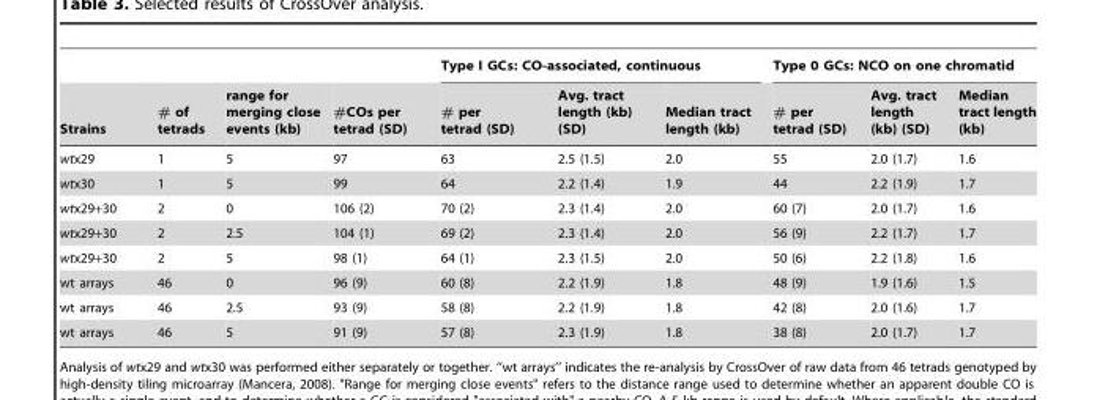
<table><thead><tr><td rowspan="2">Strains</td><td rowspan="2"># of tetrads</td><td rowspan="2">range for merging close events (kb)</td><td rowspan="2">#COs per tetrad (SD)</td><td colspan="3">Type I GCs: CO-associated, continuous</td><td colspan="3">Type 0 GCs: NCO on one chromatid</td></tr><tr><td># per tetrad (SD)</td><td>Avg. tract length (kb) (SD)</td><td>Median tract length (kb)</td><td># per tetrad (SD)</td><td>Avg. tract length (kb) (SD)</td><td>Median tract length (kb)</td></tr></thead><tbody><tr><td>wtx29</td><td>1</td><td>5</td><td>97</td><td>63</td><td>2.5 (1.5)</td><td>2.0</td><td>55</td><td>2.0 (1.7)</td><td>1.6</td></tr><tr><td>wtx30</td><td>1</td><td>5</td><td>99</td><td>64</td><td>2.2 (1.4)</td><td>1.9</td><td>44</td><td>2.2 (1.9)</td><td>1.7</td></tr><tr><td>wtx29+30</td><td>2</td><td>0</td><td>106 (2)</td><td>70 (2)</td><td>2.3 (1.4)</td><td>2.0</td><td>60 (7)</td><td>2.0 (1.7)</td><td>1.6</td></tr><tr><td>wtx29+30</td><td>2</td><td>2.5</td><td>104 (1)</td><td>69 (2)</td><td>2.3 (1.4)</td><td>2.0</td><td>56 (9)</td><td>2.2 (1.7)</td><td>1.7</td></tr><tr><td>wtx29+30</td><td>2</td><td>5</td><td>98 (1)</td><td>64 (1)</td><td>2.3 (1.5)</td><td>2.0</td><td>50 (6)</td><td>2.2 (1.8)</td><td>1.6</td></tr><tr><td>wt arrays</td><td>46</td><td>0</td><td>96 (9)</td><td>60 (8)</td><td>2.2 (1.9)</td><td>1.8</td><td>48 (9)</td><td>1.9 (1.6)</td><td>1.5</td></tr><tr><td>wt arrays</td><td>46</td><td>2.5</td><td>93 (9)</td><td>58 (8)</td><td>2.2 (1.9)</td><td>1.8</td><td>42 (8)</td><td>2.0 (1.6)</td><td>1.7</td></tr><tr><td>wt arrays</td><td>46</td><td>5</td><td>91 (9)</td><td>57 (8)</td><td>2.3 (1.9)</td><td>1.8</td><td>38 (8)</td><td>2.0 (1.7)</td><td>1.7</td></tr></tbody></table>